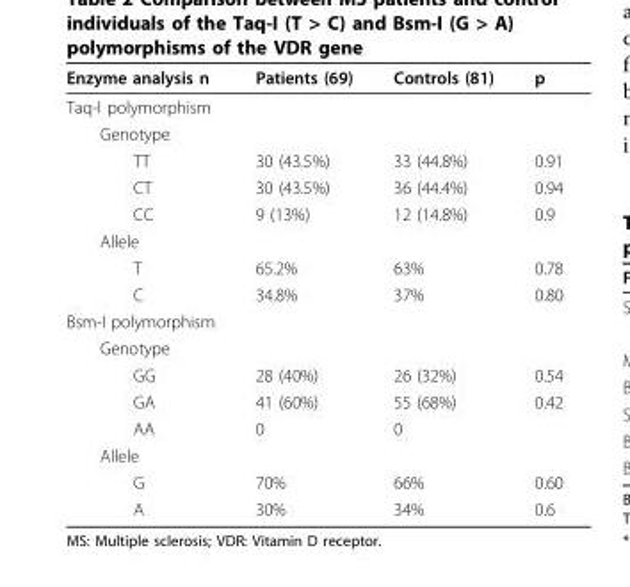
<table><thead><tr><td>Enzyme analysis n</td><td>Patients (69)</td><td>Controls (81)</td><td>p</td></tr></thead><tbody><tr><td colspan="4">Taq-I polymorphism</td></tr><tr><td colspan="4">Genotype</td></tr><tr><td>TT</td><td>30 (43.5%)</td><td>33 (44.8%)</td><td>0.91</td></tr><tr><td>CT</td><td>30 (43.5%)</td><td>36 (44.4%)</td><td>0.94</td></tr><tr><td>CC</td><td>9 (13%)</td><td>12 (14.8%)</td><td>0.9</td></tr><tr><td colspan="4">Allele</td></tr><tr><td>T</td><td>65.2%</td><td>63%</td><td>0.78</td></tr><tr><td>C</td><td>34.8%</td><td>37%</td><td>0.80</td></tr><tr><td colspan="4">Bsm-I polymorphism</td></tr><tr><td colspan="4">Genotype</td></tr><tr><td>GG</td><td>28 (40%)</td><td>26 (32%)</td><td>0.54</td></tr><tr><td>GA</td><td>41 (60%)</td><td>55 (68%)</td><td>0.42</td></tr><tr><td>AA</td><td>0</td><td>0</td><td></td></tr><tr><td colspan="4">Allele</td></tr><tr><td>G</td><td>70%</td><td>66%</td><td>0.60</td></tr><tr><td>A</td><td>30%</td><td>34%</td><td>0.6</td></tr></tbody></table>